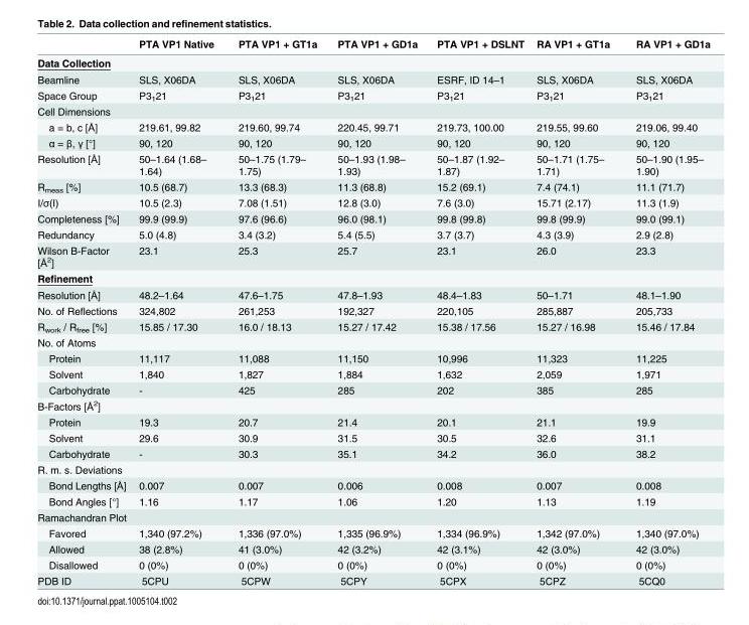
<table><thead><tr><td></td><td>PTA VP1 Native</td><td>PTA VP1 + GT1a</td><td>PTA VP1 + GD1a</td><td>PTA VP1 + DSLNT</td><td>RA VP1 + GT1a</td><td>RA VP1 + GD1a</td></tr></thead><tbody><tr><td colspan="7">Data Collection</td></tr><tr><td>Beamline</td><td>SLS, X06DA</td><td>SLS, X06DA</td><td>SLS, X06DA</td><td>ESRF, ID 14–1</td><td>SLS, X06DA</td><td>SLS, X06DA</td></tr><tr><td>Space Group</td><td>P3<sub>1</sub>21</td><td>P3<sub>1</sub>21</td><td>P3<sub>1</sub>21</td><td>P3<sub>1</sub>21</td><td>P3<sub>1</sub>21</td><td>P3<sub>1</sub>21</td></tr><tr><td colspan="7">Cell Dimensions</td></tr><tr><td>a = b, c [Å]</td><td>219.61, 99.82</td><td>219.60, 99.74</td><td>220.45, 99.71</td><td>219.73, 100.00</td><td>219.55, 99.60</td><td>219.06, 99.40</td></tr><tr><td>α = β, γ [°]</td><td>90, 120</td><td>90, 120</td><td>90, 120</td><td>90, 120</td><td>90, 120</td><td>90, 120</td></tr><tr><td>Resolution [Å]</td><td>50–1.64 (1.68– 1.64)</td><td>50–1.75 (1.79– 1.75)</td><td>50–1.93 (1.98– 1.93)</td><td>50–1.87 (1.92– 1.87)</td><td>50–1.71 (1.75– 1.71)</td><td>50–1.90 (1.95– 1.90)</td></tr><tr><td>R<sub>meas</sub> [%]</td><td>10.5 (68.7)</td><td>13.3 (68.3)</td><td>11.3 (68.8)</td><td>15.2 (69.1)</td><td>7.4 (74.1)</td><td>11.1 (71.7)</td></tr><tr><td>I/σ(I)</td><td>10.5 (2.3)</td><td>7.08 (1.51)</td><td>12.8 (3.0)</td><td>7.6 (3.0)</td><td>15.71 (2.17)</td><td>11.3 (1.9)</td></tr><tr><td>Completeness [%]</td><td>99.9 (99.9)</td><td>97.6 (96.6)</td><td>96.0 (98.1)</td><td>99.8 (99.8)</td><td>99.8 (99.9)</td><td>99.0 (99.1)</td></tr><tr><td>Redundancy</td><td>5.0 (4.8)</td><td>3.4 (3.2)</td><td>5.4 (5.5)</td><td>3.7 (3.7)</td><td>4.3 (3.9)</td><td>2.9 (2.8)</td></tr><tr><td>Wilson B-Factor [Å<sup>2</sup>]</td><td>23.1</td><td>25.3</td><td>25.7</td><td>23.1</td><td>26.0</td><td>23.3</td></tr><tr><td colspan="7">Refinement</td></tr><tr><td>Resolution [Å]</td><td>48.2–1.64</td><td>47.6–1.75</td><td>47.8–1.93</td><td>48.4–1.83</td><td>50–1.71</td><td>48.1–1.90</td></tr><tr><td>No. of Reflections</td><td>324,802</td><td>261,253</td><td>192,327</td><td>220,105</td><td>285,887</td><td>205,733</td></tr><tr><td>R<sub>work</sub> / R<sub>free</sub> [%]</td><td>15.85 / 17.30</td><td>16.0 / 18.13</td><td>15.27 / 17.42</td><td>15.38 / 17.56</td><td>15.27 / 16.98</td><td>15.46 / 17.84</td></tr><tr><td colspan="7">No. of Atoms</td></tr><tr><td>Protein</td><td>11,117</td><td>11,088</td><td>11,150</td><td>10,996</td><td>11,323</td><td>11,225</td></tr><tr><td>Solvent</td><td>1,840</td><td>1,827</td><td>1,884</td><td>1,632</td><td>2,059</td><td>1,971</td></tr><tr><td>Carbohydrate</td><td>-</td><td>425</td><td>285</td><td>202</td><td>385</td><td>285</td></tr><tr><td colspan="7">B-Factors [Å<sup>2</sup>]</td></tr><tr><td>Protein</td><td>19.3</td><td>20.7</td><td>21.4</td><td>20.1</td><td>21.1</td><td>19.9</td></tr><tr><td>Solvent</td><td>29.6</td><td>30.9</td><td>31.5</td><td>30.5</td><td>32.6</td><td>31.1</td></tr><tr><td>Carbohydrate</td><td>-</td><td>30.3</td><td>35.1</td><td>34.2</td><td>36.0</td><td>38.2</td></tr><tr><td colspan="7">R. m. s. Deviations</td></tr><tr><td>Bond Lengths [Å]</td><td>0.007</td><td>0.007</td><td>0.006</td><td>0.008</td><td>0.007</td><td>0.008</td></tr><tr><td>Bond Angles [°]</td><td>1.16</td><td>1.17</td><td>1.06</td><td>1.20</td><td>1.13</td><td>1.19</td></tr><tr><td colspan="7">Ramachandran Plot</td></tr><tr><td>Favored</td><td>1,340 (97.2%)</td><td>1,336 (97.0%)</td><td>1,335 (96.9%)</td><td>1,334 (96.9%)</td><td>1,342 (97.0%)</td><td>1,340 (97.0%)</td></tr><tr><td>Allowed</td><td>38 (2.8%)</td><td>41 (3.0%)</td><td>42 (3.2%)</td><td>42 (3.1%)</td><td>42 (3.0%)</td><td>42 (3.0%)</td></tr><tr><td>Disallowed</td><td>0 (0%)</td><td>0 (0%)</td><td>0 (0%)</td><td>0 (0%)</td><td>0 (0%)</td><td>0 (0%)</td></tr><tr><td>PDB ID</td><td>5CPU</td><td>5CPW</td><td>5CPY</td><td>5CPX</td><td>5CPZ</td><td>5CQ0</td></tr></tbody></table>